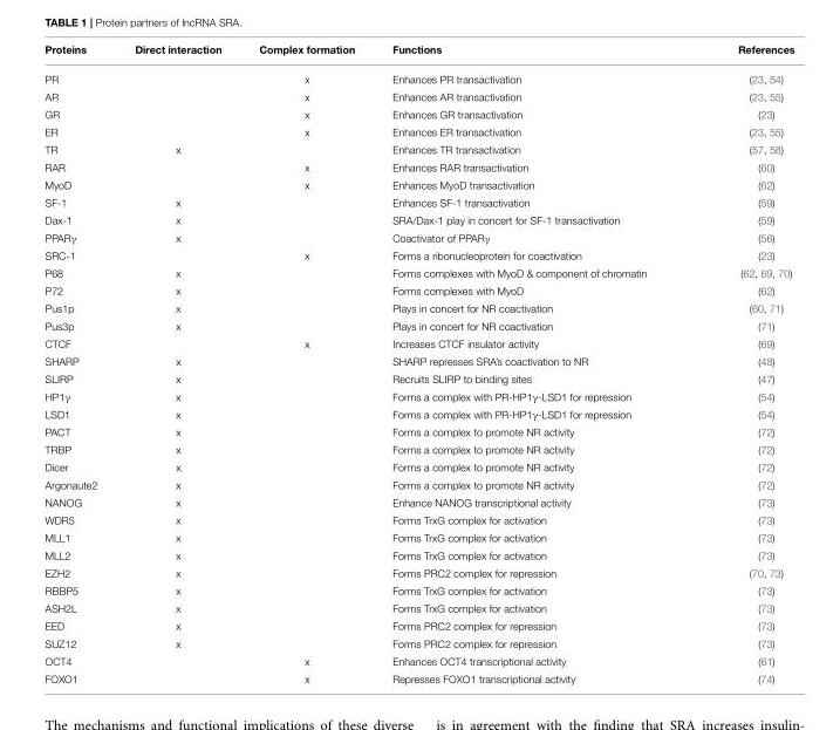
<table><thead><tr><td>Proteins</td><td>Direct interaction</td><td>Complex formation</td><td>Functions</td><td>References</td></tr></thead><tbody><tr><td>PR</td><td></td><td>x</td><td>Enhances PR transactivation</td><td>(23, 54)</td></tr><tr><td>AR</td><td></td><td>x</td><td>Enhances AR transactivation</td><td>(23, 55)</td></tr><tr><td>GR</td><td></td><td>x</td><td>Enhances GR transactivation</td><td>(23)</td></tr><tr><td>ER</td><td></td><td>x</td><td>Enhances ER transactivation</td><td>(23, 55)</td></tr><tr><td>TR</td><td>x</td><td></td><td>Enhances TR transactivation</td><td>(57, 58)</td></tr><tr><td>RAR</td><td></td><td>x</td><td>Enhances RAR transactivation</td><td>(60)</td></tr><tr><td>MyoD</td><td></td><td>x</td><td>Enhances MyoD transactivation</td><td>(62)</td></tr><tr><td>SF-1</td><td>x</td><td></td><td>Enhances SF-1 transactivation</td><td>(59)</td></tr><tr><td>Dax-1</td><td>x</td><td></td><td>SRA/Dax-1 play in concert for SF-1 transactivation</td><td>(59)</td></tr><tr><td>PPARγ</td><td>x</td><td></td><td>Coactivator of PPARγ</td><td>(56)</td></tr><tr><td>SRC-1</td><td></td><td>x</td><td>Forms a ribonucleoprotein for coactivation</td><td>(23)</td></tr><tr><td>P68</td><td>x</td><td></td><td>Forms complexes with MyoD &amp; component of chromatin</td><td>(62, 69, 70)</td></tr><tr><td>P72</td><td>x</td><td></td><td>Forms complexes with MyoD</td><td>(62)</td></tr><tr><td>Pus1p</td><td>x</td><td></td><td>Plays in concert for NR coactivation</td><td>(60, 71)</td></tr><tr><td>Pus3p</td><td>x</td><td></td><td>Plays in concert for NR coactivation</td><td>(71)</td></tr><tr><td>CTCF</td><td></td><td>x</td><td>Increases CTCF insulator activity</td><td>(69)</td></tr><tr><td>SHARP</td><td>x</td><td></td><td>SHARP represses SRA’s coactivation to NR</td><td>(48)</td></tr><tr><td>SLIRP</td><td>x</td><td></td><td>Recruits SLIRP to binding sites</td><td>(47)</td></tr><tr><td>HP1γ</td><td>x</td><td></td><td>Forms a complex with PR-HP1γ-LSD1 for repression</td><td>(54)</td></tr><tr><td>LSD1</td><td>x</td><td></td><td>Forms a complex with PR-HP1γ-LSD1 for repression</td><td>(54)</td></tr><tr><td>PACT</td><td>x</td><td></td><td>Forms a complex to promote NR activity</td><td>(72)</td></tr><tr><td>TRBP</td><td>x</td><td></td><td>Forms a complex to promote NR activity</td><td>(72)</td></tr><tr><td>Dicer</td><td>x</td><td></td><td>Forms a complex to promote NR activity</td><td>(72)</td></tr><tr><td>Argonaute2</td><td>x</td><td></td><td>Forms a complex to promote NR activity</td><td>(72)</td></tr><tr><td>NANOG</td><td>x</td><td></td><td>Enhance NANOG transcriptional activity</td><td>(73)</td></tr><tr><td>WDR5</td><td>x</td><td></td><td>Forms TrxG complex for activation</td><td>(73)</td></tr><tr><td>MLL1</td><td>x</td><td></td><td>Forms TrxG complex for activation</td><td>(73)</td></tr><tr><td>MLL2</td><td>x</td><td></td><td>Forms TrxG complex for activation</td><td>(73)</td></tr><tr><td>EZH2</td><td>x</td><td></td><td>Forms PRC2 complex for repression</td><td>(70, 73)</td></tr><tr><td>RBBP5</td><td>x</td><td></td><td>Forms TrxG complex for activation</td><td>(73)</td></tr><tr><td>ASH2L</td><td>x</td><td></td><td>Forms TrxG complex for activation</td><td>(73)</td></tr><tr><td>EED</td><td>x</td><td></td><td>Forms PRC2 complex for repression</td><td>(73)</td></tr><tr><td>SUZ12</td><td>x</td><td></td><td>Forms PRC2 complex for repression</td><td>(73)</td></tr><tr><td>OCT4</td><td></td><td>x</td><td>Enhances OCT4 transcriptional activity</td><td>(61)</td></tr><tr><td>FOXO1</td><td></td><td>x</td><td>Represses FOXO1 transcriptional activity</td><td>(74)</td></tr></tbody></table>